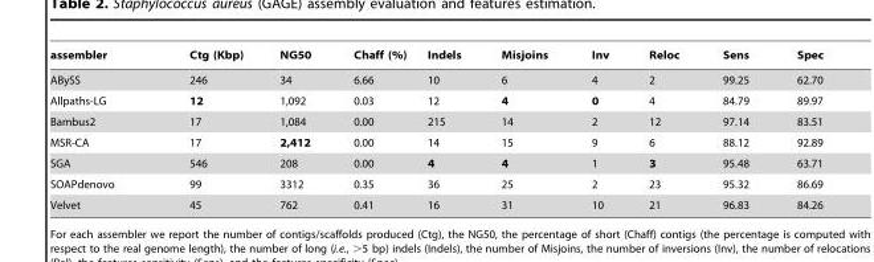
<table><thead><tr><td>assembler</td><td>Ctg (Kbp)</td><td>NG50</td><td>Chaff (%)</td><td>Indels</td><td>Misjoins</td><td>Inv</td><td>Reloc</td><td>Sens</td><td>Spec</td></tr></thead><tbody><tr><td>ABySS</td><td>246</td><td>34</td><td>6.66</td><td>10</td><td>6</td><td>4</td><td>2</td><td>99.25</td><td>62.70</td></tr><tr><td>Allpaths-LG</td><td>12</td><td>1,092</td><td>0.03</td><td>12</td><td>4</td><td>0</td><td>4</td><td>84.79</td><td>89.97</td></tr><tr><td>Bambus2</td><td>17</td><td>1,084</td><td>0.00</td><td>215</td><td>14</td><td>2</td><td>12</td><td>97.14</td><td>83.51</td></tr><tr><td>MSR-CA</td><td>17</td><td>2,412</td><td>0.00</td><td>14</td><td>15</td><td>9</td><td>6</td><td>88.12</td><td>92.89</td></tr><tr><td>SGA</td><td>546</td><td>208</td><td>0.00</td><td>4</td><td>4</td><td>1</td><td>3</td><td>95.48</td><td>63.71</td></tr><tr><td>SOAPdenovo</td><td>99</td><td>3312</td><td>0.35</td><td>36</td><td>25</td><td>2</td><td>23</td><td>95.32</td><td>86.69</td></tr><tr><td>Velvet</td><td>45</td><td>762</td><td>0.41</td><td>16</td><td>31</td><td>10</td><td>21</td><td>96.83</td><td>84.26</td></tr></tbody></table>